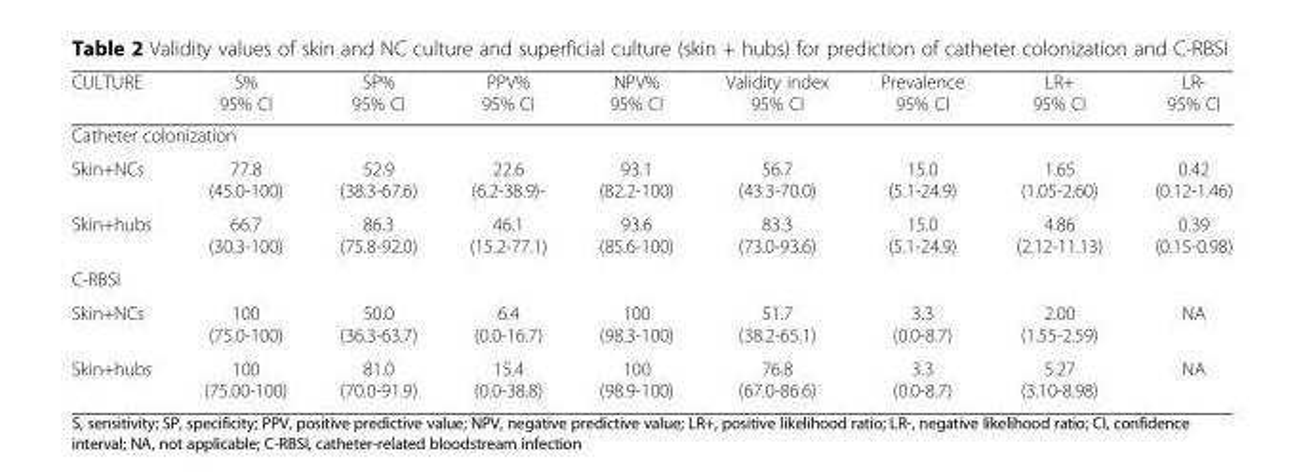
<table><thead><tr><td>CULTURE</td><td>S% 95% CI</td><td>SP% 95% CI</td><td>PPV% 95% CI</td><td>NPV% 95% CI</td><td>Validity index 95% CI</td><td>Prevalence 95% CI</td><td>LR+ 95% CI</td><td>LR- 95% CI</td></tr></thead><tbody><tr><td colspan="9">Catheter colonization</td></tr><tr><td>Skin+NCs</td><td>77.8 (45.0-100)</td><td>52.9 (38.3-67.6)</td><td>22.6 (6.2-38.9)-</td><td>93.1 (82.2-100)</td><td>56.7 (43.3-70.0)</td><td>15.0 (5.1-24.9)</td><td>1.65 (1.05-2.60)</td><td>0.42 (0.12-1.46)</td></tr><tr><td>Skin+hubs</td><td>66.7 (30.3-100)</td><td>86.3 (75.8-92.0)</td><td>46.1 (15.2-77.1)</td><td>93.6 (85.6-100)</td><td>83.3 (73.0-93.6)</td><td>15.0 (5.1-24.9)</td><td>4.86 (2.12-11.13)</td><td>0.39 (0.15-0.98)</td></tr><tr><td colspan="9">C-RBSI</td></tr><tr><td>Skin+NCs</td><td>100 (75.0-100)</td><td>50.0 (36.3-63.7)</td><td>6.4 (0.0-16.7)</td><td>100 (98.3-100)</td><td>51.7 (38.2-65.1)</td><td>3.3 (0.0-8.7)</td><td>2.00 (1.55-2.59)</td><td>NA</td></tr><tr><td>Skin+hubs</td><td>100 (75.00-100)</td><td>81.0 (70.0-91.9)</td><td>15.4 (0.0-38.8)</td><td>100 (98.9-100)</td><td>76.8 (67.0-86.6)</td><td>3.3 (0.0-8.7)</td><td>5.27 (3.10-8.98)</td><td>NA</td></tr></tbody></table>